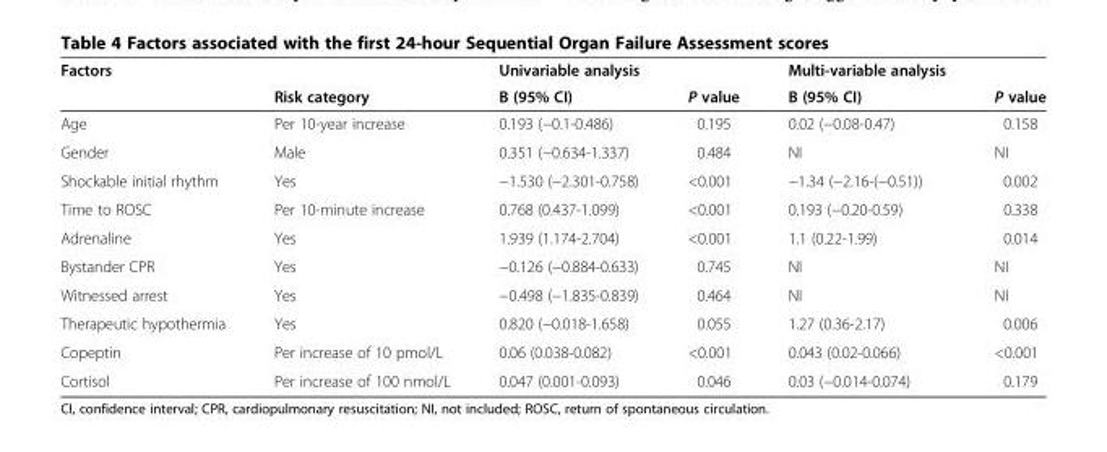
<table><thead><tr><td rowspan="2">Factors</td><td rowspan="2">Risk category</td><td rowspan="2">Univariable analysis Β (95% CI)</td><td rowspan="2">P value</td><td rowspan="2">Multi-variable analysis Β (95% CI)</td><td rowspan="2">P value</td></tr><tr></tr></thead><tbody><tr><td>Age</td><td>Per 10-year increase</td><td>0.193 (−0.1-0.486)</td><td>0.195</td><td>0.02 (−0.08-0.47)</td><td>0.158</td></tr><tr><td>Gender</td><td>Male</td><td>0.351 (−0.634-1.337)</td><td>0.484</td><td>NI</td><td>NI</td></tr><tr><td>Shockable initial rhythm</td><td>Yes</td><td>−1.530 (−2.301-0.758)</td><td>&lt;0.001</td><td>−1.34 (−2.16-(−0.51))</td><td>0.002</td></tr><tr><td>Time to ROSC</td><td>Per 10-minute increase</td><td>0.768 (0.437-1.099)</td><td>&lt;0.001</td><td>0.193 (−0.20-0.59)</td><td>0.338</td></tr><tr><td>Adrenaline</td><td>Yes</td><td>1.939 (1.174-2.704)</td><td>&lt;0.001</td><td>1.1 (0.22-1.99)</td><td>0.014</td></tr><tr><td>Bystander CPR</td><td>Yes</td><td>−0.126 (−0.884-0.633)</td><td>0.745</td><td>NI</td><td>NI</td></tr><tr><td>Witnessed arrest</td><td>Yes</td><td>−0.498 (−1.835-0.839)</td><td>0.464</td><td>NI</td><td>NI</td></tr><tr><td>Therapeutic hypothermia</td><td>Yes</td><td>0.820 (−0.018-1.658)</td><td>0.055</td><td>1.27 (0.36-2.17)</td><td>0.006</td></tr><tr><td>Copeptin</td><td>Per increase of 10 pmol/L</td><td>0.06 (0.038-0.082)</td><td>&lt;0.001</td><td>0.043 (0.02-0.066)</td><td>&lt;0.001</td></tr><tr><td>Cortisol</td><td>Per increase of 100 nmol/L</td><td>0.047 (0.001-0.093)</td><td>0.046</td><td>0.03 (−0.014-0.074)</td><td>0.179</td></tr></tbody></table>